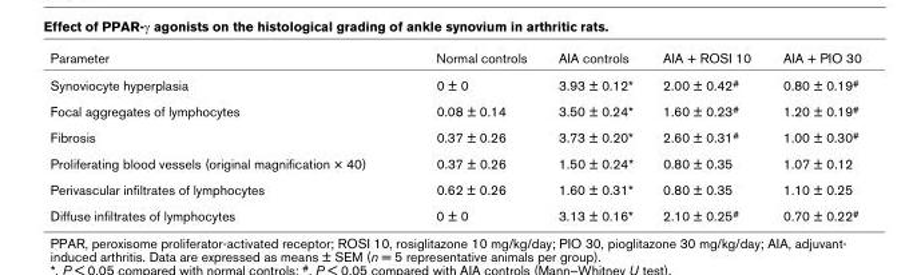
<table><thead><tr><td>Parameter</td><td>Normal controls</td><td>AIA controls</td><td>AIA + ROSI 10</td><td>AIA + PIO 30</td></tr></thead><tbody><tr><td>Synoviocyte hyperplasia</td><td>0 ± 0</td><td>3.93 ± 0.12*</td><td>2.00 ± 0.42<sup>#</sup></td><td>0.80 ± 0.19<sup>#</sup></td></tr><tr><td>Focal aggregates of lymphocytes</td><td>0.08 ± 0.14</td><td>3.50 ± 0.24*</td><td>1.60 ± 0.23<sup>#</sup></td><td>1.20 ± 0.19<sup>#</sup></td></tr><tr><td>Fibrosis</td><td>0.37 ± 0.26</td><td>3.73 ± 0.20*</td><td>2.60 ± 0.31<sup>#</sup></td><td>1.00 ± 0.30<sup>#</sup></td></tr><tr><td>Proliferating blood vessels (original magnification × 40)</td><td>0.37 ± 0.26</td><td>1.50 ± 0.24*</td><td>0.80 ± 0.35</td><td>1.07 ± 0.12</td></tr><tr><td>Perivascular infiltrates of lymphocytes</td><td>0.62 ± 0.26</td><td>1.60 ± 0.31*</td><td>0.80 ± 0.35</td><td>1.10 ± 0.25</td></tr><tr><td>Diffuse infiltrates of lymphocytes</td><td>0 ± 0</td><td>3.13 ± 0.16*</td><td>2.10 ± 0.25<sup>#</sup></td><td>0.70 ± 0.22<sup>#</sup></td></tr></tbody></table>